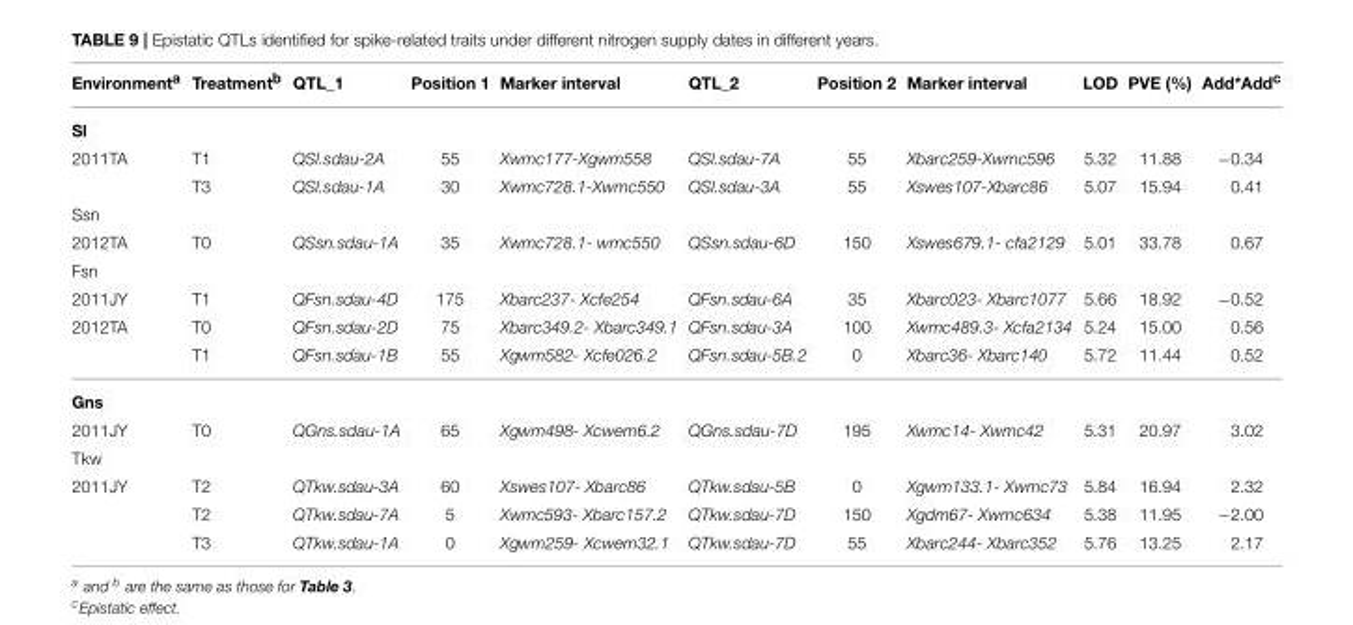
<table><thead><tr><td>Environment<sup>a</sup></td><td>Treatment<sup>b</sup></td><td>QTL_1</td><td>Position 1</td><td>Marker interval</td><td>QTL_2</td><td>Position 2</td><td>Marker interval</td><td>LOD</td><td>PVE (%)</td><td>Add*Add<sup>c</sup></td></tr></thead><tbody><tr><td colspan="11">Sl</td></tr><tr><td rowspan="2">2011TA</td><td>T1</td><td>QSl.sdau-2A</td><td>55</td><td>Xwmc177-Xgwm558</td><td>QSl.sdau-7A</td><td>55</td><td>Xbarc259-Xwmc596</td><td>5.32</td><td>11.88</td><td>−0.34</td></tr><tr><td>T3</td><td>QSl.sdau-1A</td><td>30</td><td>Xwmc728.1-Xwmc550</td><td>QSl.sdau-3A</td><td>55</td><td>Xswes107-Xbarc86</td><td>5.07</td><td>15.94</td><td>0.41</td></tr><tr><td colspan="11">Ssn</td></tr><tr><td>2012TA</td><td>T0</td><td>QSsn.sdau-1A</td><td>35</td><td>Xwmc728.1- wmc550</td><td>QSsn.sdau-6D</td><td>150</td><td>Xswes679.1- cfa2129</td><td>5.01</td><td>33.78</td><td>0.67</td></tr><tr><td colspan="11">Fsn</td></tr><tr><td>2011JY</td><td>T1</td><td>QFsn.sdau-4D</td><td>175</td><td>Xbarc237- Xcfe254</td><td>QFsn.sdau-6A</td><td>35</td><td>Xbarc023- Xbarc1077</td><td>5.66</td><td>18.92</td><td>−0.52</td></tr><tr><td rowspan="2">2012TA</td><td>T0</td><td>QFsn.sdau-2D</td><td>75</td><td>Xbarc349.2- Xbarc349.1</td><td>QFsn.sdau-3A</td><td>100</td><td>Xwmc489.3- Xcfa2134</td><td>5.24</td><td>15.00</td><td>0.56</td></tr><tr><td>T1</td><td>QFsn.sdau-1B</td><td>55</td><td>Xgwm582- Xcfe026.2</td><td>QFsn.sdau-5B.2</td><td>0</td><td>Xbarc36- Xbarc140</td><td>5.72</td><td>11.44</td><td>0.52</td></tr><tr><td colspan="11">Gns</td></tr><tr><td>2011JY</td><td>T0</td><td>QGns.sdau-1A</td><td>65</td><td>Xgwm498- Xcwem6.2</td><td>QGns.sdau-7D</td><td>195</td><td>Xwmc14- Xwmc42</td><td>5.31</td><td>20.97</td><td>3.02</td></tr><tr><td colspan="11">Tkw</td></tr><tr><td rowspan="3">2011JY</td><td>T2</td><td>QTkw.sdau-3A</td><td>60</td><td>Xswes107- Xbarc86</td><td>QTkw.sdau-5B</td><td>0</td><td>Xgwm133.1- Xwmc73</td><td>5.84</td><td>16.94</td><td>2.32</td></tr><tr><td>T2</td><td>QTkw.sdau-7A</td><td>5</td><td>Xwmc593- Xbarc157.2</td><td>QTkw.sdau-7D</td><td>150</td><td>Xgdm67- Xwmc634</td><td>5.38</td><td>11.95</td><td>−2.00</td></tr><tr><td>T3</td><td>QTkw.sdau-1A</td><td>0</td><td>Xgwm259- Xcwem32.1</td><td>QTkw.sdau-7D</td><td>55</td><td>Xbarc244- Xbarc352</td><td>5.76</td><td>13.25</td><td>2.17</td></tr></tbody></table>